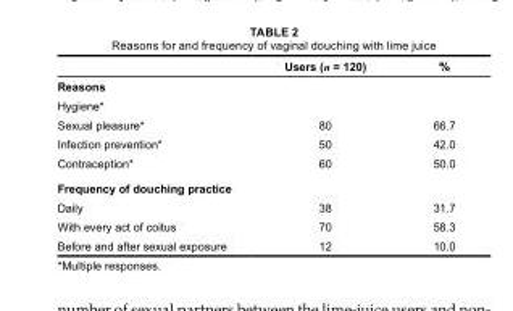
<table><thead><tr><td></td><td>Users (n = 120)</td><td>%</td></tr></thead><tbody><tr><td colspan="3">Reasons</td></tr><tr><td colspan="3">Hygiene*</td></tr><tr><td>Sexual pleasure*</td><td>80</td><td>66.7</td></tr><tr><td>Infection prevention*</td><td>50</td><td>42.0</td></tr><tr><td>Contraception*</td><td>60</td><td>50.0</td></tr><tr><td colspan="3">Frequency of douching practice</td></tr><tr><td>Daily</td><td>38</td><td>31.7</td></tr><tr><td>With every act of coitus</td><td>70</td><td>58.3</td></tr><tr><td>Before and after sexual exposure</td><td>12</td><td>10.0</td></tr></tbody></table>